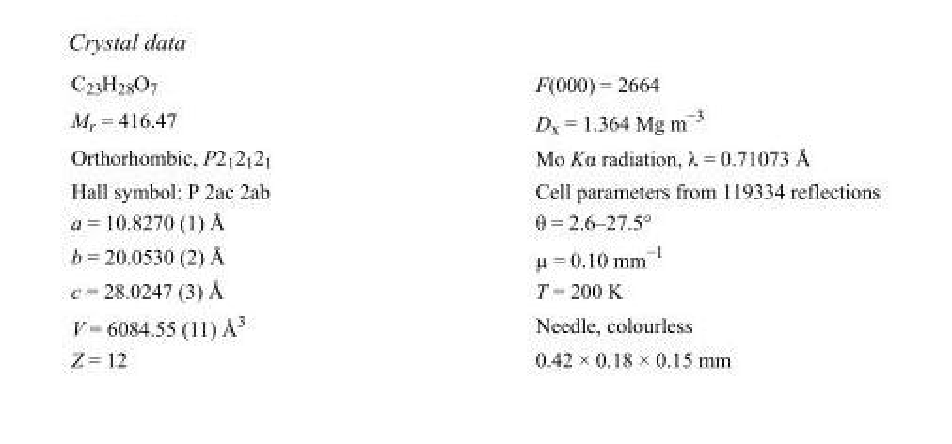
<table><tbody><tr><td>C<sub>23</sub>H<sub>28</sub>O<sub>7</sub></td><td>F(000) = 2664</td></tr><tr><td>M<sub>r</sub> = 416.47</td><td>D<sub>x</sub> = 1.364 Mg m<sup>−3</sup></td></tr><tr><td>Orthorhombic, P2<sub>1</sub>2<sub>1</sub>2<sub>1</sub></td><td>Mo Kα radiation, λ = 0.71073 Å</td></tr><tr><td>Hall symbol: P 2ac 2ab</td><td>Cell parameters from 119334 reflections</td></tr><tr><td>a = 10.8270 (1) Å</td><td>θ = 2.6–27.5°</td></tr><tr><td>b = 20.0530 (2) Å</td><td>µ = 0.10 mm<sup>−1</sup></td></tr><tr><td>c = 28.0247 (3) Å</td><td>T = 200 K</td></tr><tr><td>V = 6084.55 (11) Å<sup>3</sup></td><td>Needle, colourless</td></tr><tr><td>Z = 12</td><td>0.42 × 0.18 × 0.15 mm</td></tr></tbody></table>